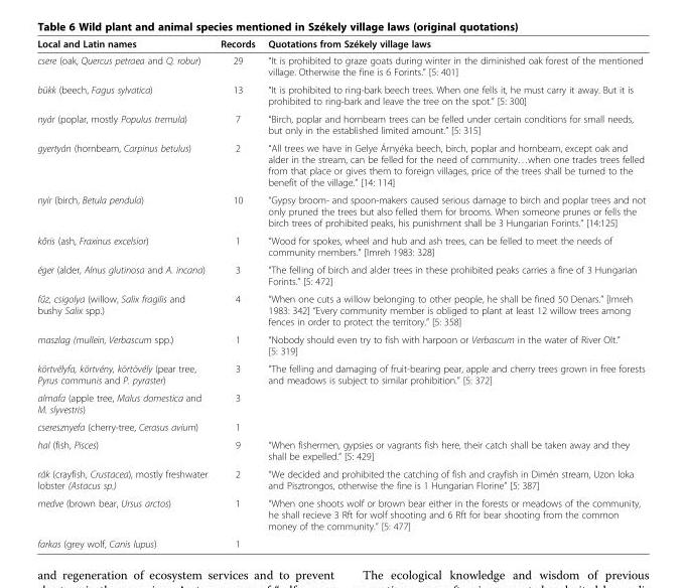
<table><thead><tr><td>Local and Latin names</td><td>Records</td><td>Quotations from Székely village laws</td></tr></thead><tbody><tr><td>csere (oak, Quercus petraea and Q. robur)</td><td>29</td><td>“It is prohibited to graze goats during winter in the diminished oak forest of the mentioned village. Otherwise the fine is 6 Forints.” [5: 401]</td></tr><tr><td>bükk (beech, Fagus sylvatica)</td><td>13</td><td>“It is prohibited to ring-bark beech trees. When one fells it, he must carry it away. But it is prohibited to ring-bark and leave the tree on the spot.” [5: 300]</td></tr><tr><td>nyár (poplar, mostly Populus tremula)</td><td>7</td><td>“Birch, poplar and hornbeam trees can be felled under certain conditions for small needs, but only in the established limited amount.” [5: 315]</td></tr><tr><td>gyertyán (hornbeam, Carpinus betulus)</td><td>2</td><td>“All trees we have in Gelye Árnyéka beech, birch, poplar and hornbeam, except oak and alder in the stream, can be felled for the need of community…when one trades trees felled from that place or gives them to foreign villages, price of the trees shall be turned to the benefit of the village.” [14: 114]</td></tr><tr><td>nyír (birch, Betula pendula)</td><td>10</td><td>“Gypsy broom- and spoon-makers caused serious damage to birch and poplar trees and not only pruned the trees but also felled them for brooms. When someone prunes or fells the birch trees of prohibited peaks, his punishment shall be 3 Hungarian Forints.” [14:125]</td></tr><tr><td>kőris (ash, Fraxinus excelsior)</td><td>1</td><td>“Wood for spokes, wheel and hub and ash trees, can be felled to meet the needs of community members.” [Imreh 1983: 328]</td></tr><tr><td>éger (alder, Alnus glutinosa and A. incana)</td><td>3</td><td>“The felling of birch and alder trees in these prohibited peaks carries a fine of 3 Hungarian Forints.” [5: 472]</td></tr><tr><td>fűz, csigolya (willow, Salix fragilis and bushy Salix spp.)</td><td>4</td><td>“When one cuts a willow belonging to other people, he shall be fined 50 Denars.” [Imreh 1983: 342] “Every community member is obliged to plant at least 12 willow trees among fences in order to protect the territory.” [5: 358]</td></tr><tr><td>maszlag (mullein, Verbascum spp.)</td><td>1</td><td>“Nobody should even try to fish with harpoon or Verbascum in the water of River Olt.” [5: 319]</td></tr><tr><td>körtvélyfa, körtvény, körtövély (pear tree, Pyrus communis and P. pyraster)</td><td>3</td><td rowspan="3">“The felling and damaging of fruit-bearing pear, apple and cherry trees grown in free forests and meadows is subject to similar prohibition.” [5: 372]</td></tr><tr><td>almafa (apple tree, Malus domestica and M. slyvestris)</td><td>3</td></tr><tr><td>cseresznyefa (cherry-tree, Cerasus avium)</td><td>1</td></tr><tr><td>hal (fish, Pisces)</td><td>9</td><td>“When fishermen, gypsies or vagrants fish here, their catch shall be taken away and they shall be expelled.” [5: 429]</td></tr><tr><td>rák (crayfish, Crustacea), mostly freshwater lobster (Astacus sp.)</td><td>2</td><td>“We decided and prohibited the catching of fish and crayfish in Dimén stream, Uzon loka and Pisztrongos, otherwise the fine is 1 Hungarian Florine” [5: 387]</td></tr><tr><td>medve (brown bear, Ursus arctos)</td><td>1</td><td>“When one shoots wolf or brown bear either in the forests or meadows of the community, he shall recieve 3 Rft for wolf shooting and 6 Rft for bear shooting from the common money of the community.” [5: 477]</td></tr><tr><td>farkas (grey wolf, Canis lupus)</td><td>1</td><td></td></tr></tbody></table>